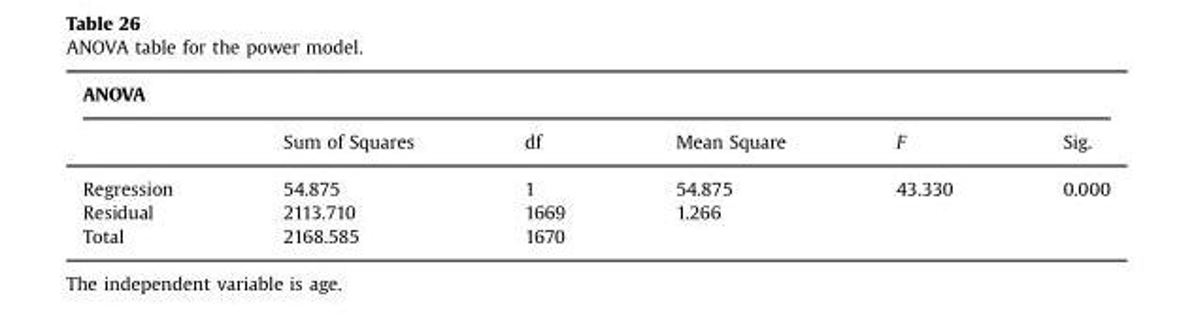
<table><thead><tr><td colspan="6">ANOVA</td></tr><tr><td></td><td>Sum of Squares</td><td>df</td><td>Mean Square</td><td>F</td><td>Sig.</td></tr></thead><tbody><tr><td>Regression</td><td>54.875</td><td>1</td><td>54.875</td><td>43.330</td><td>0.000</td></tr><tr><td>Residual</td><td>2113.710</td><td>1669</td><td>1.266</td><td></td><td></td></tr><tr><td>Total</td><td>2168.585</td><td>1670</td><td></td><td></td><td></td></tr></tbody></table>